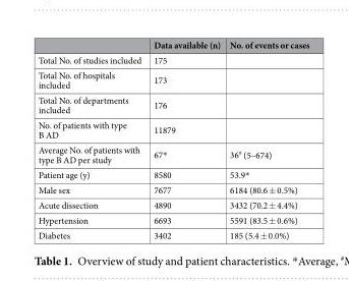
<table><thead><tr><td></td><td>Data available (n)</td><td>No. of events or cases</td></tr></thead><tbody><tr><td>Total No. of studies included</td><td>175</td><td></td></tr><tr><td>Total No. of hospitals included</td><td>173</td><td></td></tr><tr><td>Total No. of departments included</td><td>176</td><td></td></tr><tr><td>No. of patients with type B AD</td><td>11879</td><td></td></tr><tr><td>Average No. of patients with type B AD per study</td><td>67*</td><td>36<sup>#</sup> (5–674)</td></tr><tr><td>Patient age (y)</td><td>8580</td><td>53.9*</td></tr><tr><td>Male sex</td><td>7677</td><td>6184 (80.6 ± 0.5%)</td></tr><tr><td>Acute dissection</td><td>4890</td><td>3432 (70.2 ± 4.4%)</td></tr><tr><td>Hypertension</td><td>6693</td><td>5591 (83.5 ± 0.6%)</td></tr><tr><td>Diabetes</td><td>3402</td><td>185 (5.4 ± 0.0%)</td></tr></tbody></table>